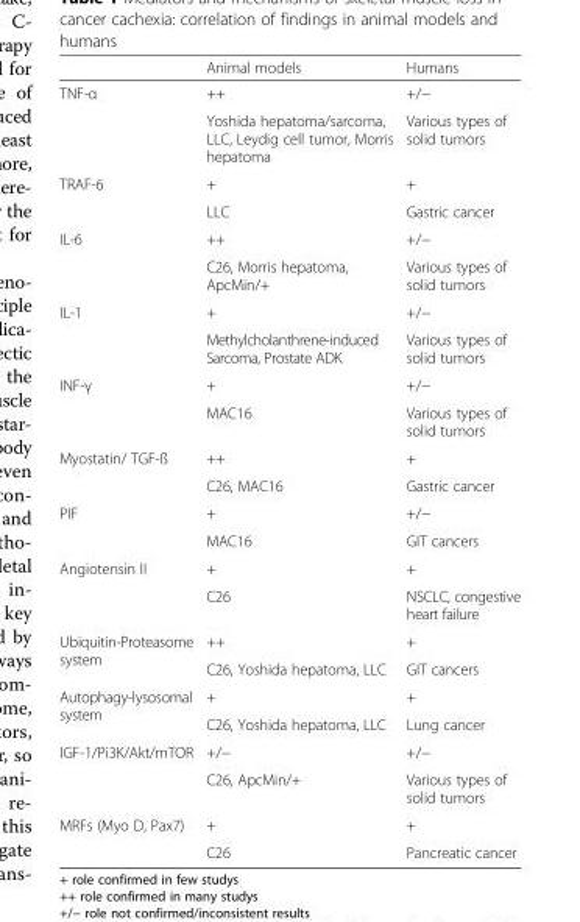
<table><thead><tr><td></td><td>Animal models</td><td>Humans</td></tr></thead><tbody><tr><td rowspan="2">TNF-α</td><td>++</td><td>+/−</td></tr><tr><td>Yoshida hepatoma/sarcoma, LLC, Leydig cell tumor, Morris hepatoma</td><td>Various types of solid tumors</td></tr><tr><td rowspan="2">TRAF-6</td><td>+</td><td>+</td></tr><tr><td>LLC</td><td>Gastric cancer</td></tr><tr><td rowspan="2">IL-6</td><td>++</td><td>+/−</td></tr><tr><td>C26, Morris hepatoma, ApcMin/+</td><td>Various types of solid tumors</td></tr><tr><td rowspan="2">IL-1</td><td>+</td><td>+/−</td></tr><tr><td>Methylcholanthrene-induced Sarcoma, Prostate ADK</td><td>Various types of solid tumors</td></tr><tr><td rowspan="2">INF-γ</td><td>+</td><td>+/−</td></tr><tr><td>MAC16</td><td>Various types of solid tumors</td></tr><tr><td rowspan="2">Myostatin/ TGF-ß</td><td>++</td><td>+</td></tr><tr><td>C26, MAC16</td><td>Gastric cancer</td></tr><tr><td rowspan="2">PIF</td><td>+</td><td>+/−</td></tr><tr><td>MAC16</td><td>GIT cancers</td></tr><tr><td rowspan="2">Angiotensin II</td><td>+</td><td>+</td></tr><tr><td>C26</td><td>NSCLC, congestive heart failure</td></tr><tr><td rowspan="2">Ubiquitin-Proteasome system</td><td>++</td><td>+</td></tr><tr><td>C26, Yoshida hepatoma, LLC</td><td>GIT cancers</td></tr><tr><td rowspan="2">Autophagy-lysosomal system</td><td>+</td><td>+</td></tr><tr><td>C26, Yoshida hepatoma, LLC</td><td>Lung cancer</td></tr><tr><td rowspan="2">IGF-1/Pi3K/Akt/mTOR</td><td>+/−</td><td>+/−</td></tr><tr><td>C26, ApcMin/+</td><td>Various types of solid tumors</td></tr><tr><td rowspan="2">MRFs (Myo D, Pax7)</td><td>+</td><td>+</td></tr><tr><td>C26</td><td>Pancreatic cancer</td></tr></tbody></table>